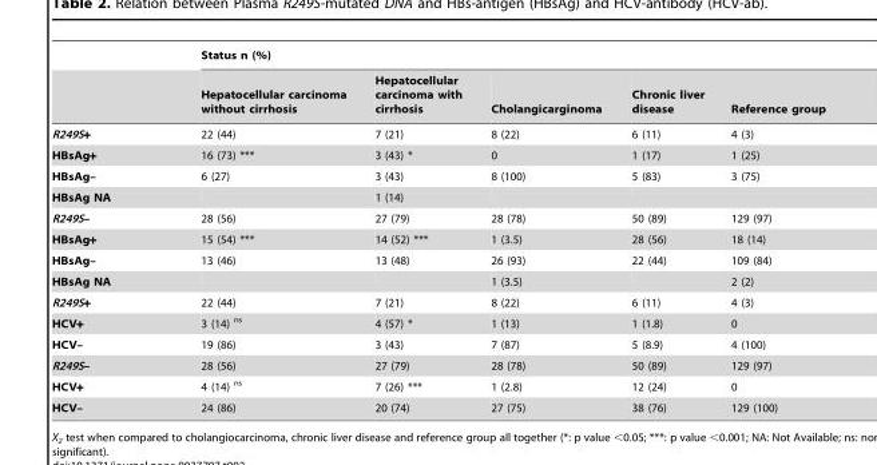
<table><thead><tr><td rowspan="2"></td><td colspan="5">Status n (%)</td></tr><tr><td>Hepatocellular carcinoma without cirrhosis</td><td>Hepatocellular carcinoma with cirrhosis</td><td>Cholangicarginoma</td><td>Chronic liver disease</td><td>Reference group</td></tr></thead><tbody><tr><td>R249S+</td><td>22 (44)</td><td>7 (21)</td><td>8 (22)</td><td>6 (11)</td><td>4 (3)</td></tr><tr><td>HBsAg+</td><td>16 (73) ***</td><td>3 (43) *</td><td>0</td><td>1 (17)</td><td>1 (25)</td></tr><tr><td>HBsAg–</td><td>6 (27)</td><td>3 (43)</td><td>8 (100)</td><td>5 (83)</td><td>3 (75)</td></tr><tr><td>HBsAg NA</td><td></td><td>1 (14)</td><td></td><td></td><td></td></tr><tr><td>R249S–</td><td>28 (56)</td><td>27 (79)</td><td>28 (78)</td><td>50 (89)</td><td>129 (97)</td></tr><tr><td>HBsAg+</td><td>15 (54) ***</td><td>14 (52) ***</td><td>1 (3.5)</td><td>28 (56)</td><td>18 (14)</td></tr><tr><td>HBsAg–</td><td>13 (46)</td><td>13 (48)</td><td>26 (93)</td><td>22 (44)</td><td>109 (84)</td></tr><tr><td>HBsAg NA</td><td></td><td></td><td>1 (3.5)</td><td></td><td>2 (2)</td></tr><tr><td>R249S+</td><td>22 (44)</td><td>7 (21)</td><td>8 (22)</td><td>6 (11)</td><td>4 (3)</td></tr><tr><td>HCV+</td><td>3 (14) <sup>ns</sup></td><td>4 (57) *</td><td>1 (13)</td><td>1 (1.8)</td><td>0</td></tr><tr><td>HCV–</td><td>19 (86)</td><td>3 (43)</td><td>7 (87)</td><td>5 (8.9)</td><td>4 (100)</td></tr><tr><td>R249S–</td><td>28 (56)</td><td>27 (79)</td><td>28 (78)</td><td>50 (89)</td><td>129 (97)</td></tr><tr><td>HCV+</td><td>4 (14) <sup>ns</sup></td><td>7 (26) ***</td><td>1 (2.8)</td><td>12 (24)</td><td>0</td></tr><tr><td>HCV–</td><td>24 (86)</td><td>20 (74)</td><td>27 (75)</td><td>38 (76)</td><td>129 (100)</td></tr></tbody></table>